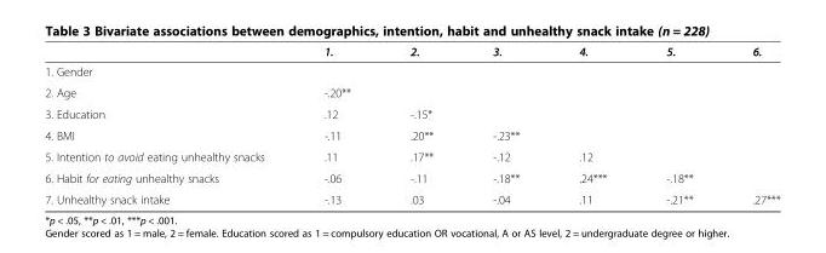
<table><thead><tr><td></td><td>1.</td><td>2.</td><td>3.</td><td>4.</td><td>5.</td><td>6.</td></tr></thead><tbody><tr><td colspan="7">1. Gender</td></tr><tr><td>2. Age</td><td>-.20**</td><td></td><td></td><td></td><td></td><td></td></tr><tr><td>3. Education</td><td>.12</td><td>-.15*</td><td></td><td></td><td></td><td></td></tr><tr><td>4. BMI</td><td>-.11</td><td>.20**</td><td>-.23**</td><td></td><td></td><td></td></tr><tr><td>5. Intention to avoid eating unhealthy snacks</td><td>.11</td><td>.17**</td><td>-.12</td><td>.12</td><td></td><td></td></tr><tr><td>6. Habit for eating unhealthy snacks</td><td>-.06</td><td>-.11</td><td>-.18**</td><td>.24***</td><td>-.18**</td><td></td></tr><tr><td>7. Unhealthy snack intake</td><td>-.13</td><td>.03</td><td>-.04</td><td>.11</td><td>-.21**</td><td>.27***</td></tr></tbody></table>